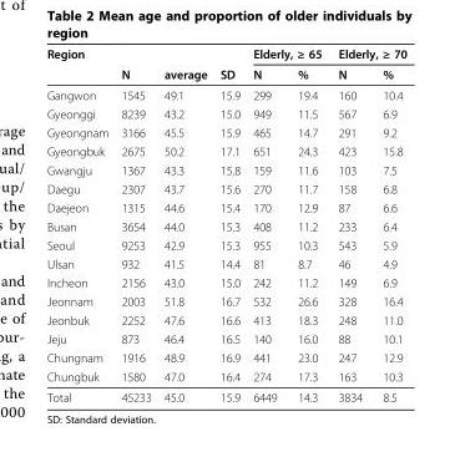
<table><thead><tr><td rowspan="2">Region</td><td rowspan="2">N</td><td rowspan="2">average</td><td rowspan="2">SD</td><td colspan="2">Elderly, ≥ 65</td><td colspan="2">Elderly, ≥ 70</td></tr><tr><td>N</td><td>%</td><td>N</td><td>%</td></tr></thead><tbody><tr><td>Gangwon</td><td>1545</td><td>49.1</td><td>15.9</td><td>299</td><td>19.4</td><td>160</td><td>10.4</td></tr><tr><td>Gyeonggi</td><td>8239</td><td>43.2</td><td>15.0</td><td>949</td><td>11.5</td><td>567</td><td>6.9</td></tr><tr><td>Gyeongnam</td><td>3166</td><td>45.5</td><td>15.9</td><td>465</td><td>14.7</td><td>291</td><td>9.2</td></tr><tr><td>Gyeongbuk</td><td>2675</td><td>50.2</td><td>17.1</td><td>651</td><td>24.3</td><td>423</td><td>15.8</td></tr><tr><td>Gwangju</td><td>1367</td><td>43.3</td><td>15.8</td><td>159</td><td>11.6</td><td>103</td><td>7.5</td></tr><tr><td>Daegu</td><td>2307</td><td>43.7</td><td>15.6</td><td>270</td><td>11.7</td><td>158</td><td>6.8</td></tr><tr><td>Daejeon</td><td>1315</td><td>44.6</td><td>15.4</td><td>170</td><td>12.9</td><td>87</td><td>6.6</td></tr><tr><td>Busan</td><td>3654</td><td>44.0</td><td>15.3</td><td>408</td><td>11.2</td><td>233</td><td>6.4</td></tr><tr><td>Seoul</td><td>9253</td><td>42.9</td><td>15.3</td><td>955</td><td>10.3</td><td>543</td><td>5.9</td></tr><tr><td>Ulsan</td><td>932</td><td>41.5</td><td>14.4</td><td>81</td><td>8.7</td><td>46</td><td>4.9</td></tr><tr><td>Incheon</td><td>2156</td><td>43.0</td><td>15.0</td><td>242</td><td>11.2</td><td>149</td><td>6.9</td></tr><tr><td>Jeonnam</td><td>2003</td><td>51.8</td><td>16.7</td><td>532</td><td>26.6</td><td>328</td><td>16.4</td></tr><tr><td>Jeonbuk</td><td>2252</td><td>47.6</td><td>16.6</td><td>413</td><td>18.3</td><td>248</td><td>11.0</td></tr><tr><td>Jeju</td><td>873</td><td>46.4</td><td>16.5</td><td>140</td><td>16.0</td><td>88</td><td>10.1</td></tr><tr><td>Chungnam</td><td>1916</td><td>48.9</td><td>16.9</td><td>441</td><td>23.0</td><td>247</td><td>12.9</td></tr><tr><td>Chungbuk</td><td>1580</td><td>47.0</td><td>16.4</td><td>274</td><td>17.3</td><td>163</td><td>10.3</td></tr><tr><td>Total</td><td>45233</td><td>45.0</td><td>15.9</td><td>6449</td><td>14.3</td><td>3834</td><td>8.5</td></tr></tbody></table>